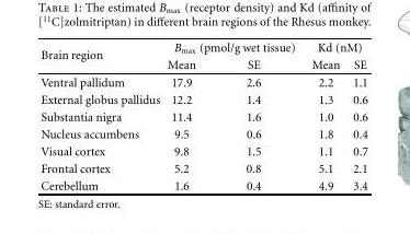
<table><thead><tr><td rowspan="2">Brain region</td><td colspan="2">B<sub>max</sub> (pmol/g wet tissue)</td><td colspan="2">Kd (nM)</td></tr><tr><td>Mean</td><td>SE</td><td>Mean</td><td>SE</td></tr></thead><tbody><tr><td>Ventral pallidum</td><td>17.9</td><td>2.6</td><td>2.2</td><td>1.1</td></tr><tr><td>External globus pallidus</td><td>12.2</td><td>1.4</td><td>1.3</td><td>0.6</td></tr><tr><td>Substantia nigra</td><td>11.4</td><td>1.6</td><td>1.0</td><td>0.6</td></tr><tr><td>Nucleus accumbens</td><td>9.5</td><td>0.6</td><td>1.8</td><td>0.4</td></tr><tr><td>Visual cortex</td><td>9.8</td><td>1.5</td><td>1.1</td><td>0.7</td></tr><tr><td>Frontal cortex</td><td>5.2</td><td>0.8</td><td>5.1</td><td>2.1</td></tr><tr><td>Cerebellum</td><td>1.6</td><td>0.4</td><td>4.9</td><td>3.4</td></tr></tbody></table>